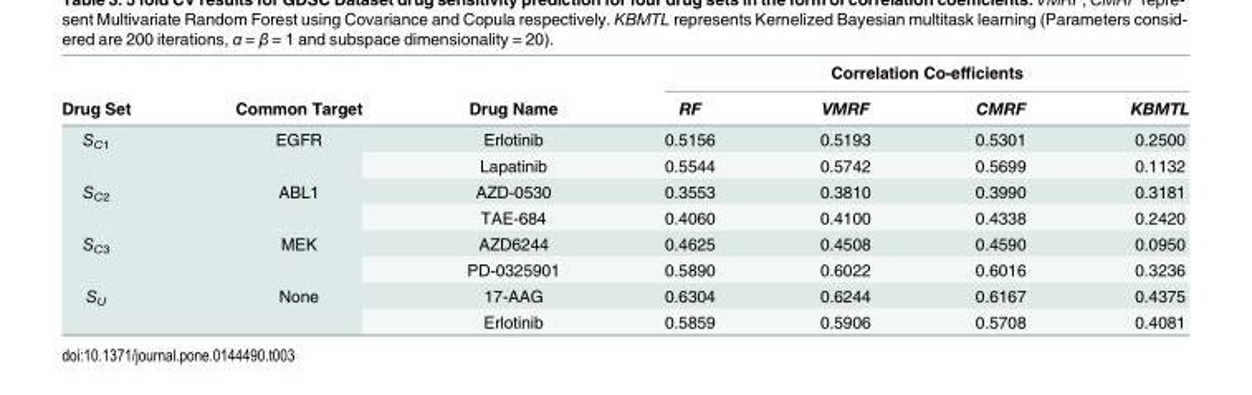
<table><thead><tr><td rowspan="2">Drug Set</td><td rowspan="2">Common Target</td><td rowspan="2">Drug Name</td><td colspan="4">Correlation Co-efficients</td></tr><tr><td>RF</td><td>VMRF</td><td>CMRF</td><td>KBMTL</td></tr></thead><tbody><tr><td rowspan="2">S<sub>C1</sub></td><td rowspan="2">EGFR</td><td>Erlotinib</td><td>0.5156</td><td>0.5193</td><td>0.5301</td><td>0.2500</td></tr><tr><td>Lapatinib</td><td>0.5544</td><td>0.5742</td><td>0.5699</td><td>0.1132</td></tr><tr><td rowspan="2">S<sub>C2</sub></td><td rowspan="2">ABL1</td><td>AZD-0530</td><td>0.3553</td><td>0.3810</td><td>0.3990</td><td>0.3181</td></tr><tr><td>TAE-684</td><td>0.4060</td><td>0.4100</td><td>0.4338</td><td>0.2420</td></tr><tr><td rowspan="2">S<sub>C3</sub></td><td rowspan="2">MEK</td><td>AZD6244</td><td>0.4625</td><td>0.4508</td><td>0.4590</td><td>0.0950</td></tr><tr><td>PD-0325901</td><td>0.5890</td><td>0.6022</td><td>0.6016</td><td>0.3236</td></tr><tr><td rowspan="2">S<sub>U</sub></td><td rowspan="2">None</td><td>17-AAG</td><td>0.6304</td><td>0.6244</td><td>0.6167</td><td>0.4375</td></tr><tr><td>Erlotinib</td><td>0.5859</td><td>0.5906</td><td>0.5708</td><td>0.4081</td></tr></tbody></table>